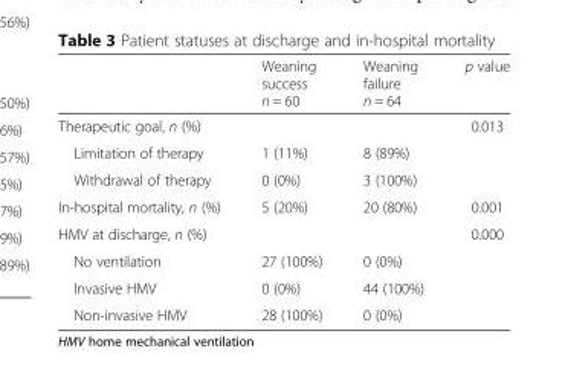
<table><thead><tr><td></td><td>Weaning success n = 60</td><td>Weaning failure n = 64</td><td>p value</td></tr></thead><tbody><tr><td>Therapeutic goal, n (%)</td><td></td><td></td><td>0.013</td></tr><tr><td>Limitation of therapy</td><td>1 (11%)</td><td>8 (89%)</td><td></td></tr><tr><td>Withdrawal of therapy</td><td>0 (0%)</td><td>3 (100%)</td><td></td></tr><tr><td>In-hospital mortality, n (%)</td><td>5 (20%)</td><td>20 (80%)</td><td>0.001</td></tr><tr><td>HMV at discharge, n (%)</td><td></td><td></td><td>0.000</td></tr><tr><td>No ventilation</td><td>27 (100%)</td><td>0 (0%)</td><td></td></tr><tr><td>Invasive HMV</td><td>0 (0%)</td><td>44 (100%)</td><td></td></tr><tr><td>Non-invasive HMV</td><td>28 (100%)</td><td>0 (0%)</td><td></td></tr></tbody></table>